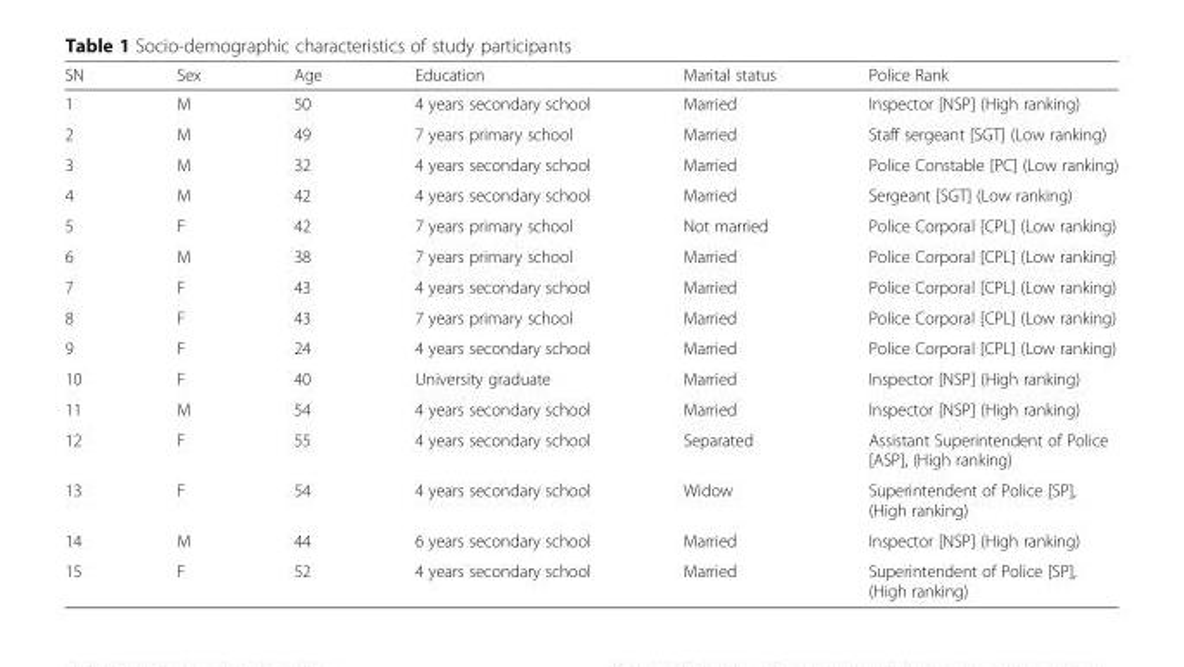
<table><thead><tr><td>SN</td><td>Sex</td><td>Age</td><td>Education</td><td>Marital status</td><td>Police Rank</td></tr></thead><tbody><tr><td>1</td><td>M</td><td>50</td><td>4 years secondary school</td><td>Married</td><td>Inspector [NSP] (High ranking)</td></tr><tr><td>2</td><td>M</td><td>49</td><td>7 years primary school</td><td>Married</td><td>Staff sergeant [SGT] (Low ranking)</td></tr><tr><td>3</td><td>M</td><td>32</td><td>4 years secondary school</td><td>Married</td><td>Police Constable [PC] (Low ranking)</td></tr><tr><td>4</td><td>M</td><td>42</td><td>4 years secondary school</td><td>Married</td><td>Sergeant [SGT] (Low ranking)</td></tr><tr><td>5</td><td>F</td><td>42</td><td>7 years primary school</td><td>Not married</td><td>Police Corporal [CPL] (Low ranking)</td></tr><tr><td>6</td><td>M</td><td>38</td><td>7 years primary school</td><td>Married</td><td>Police Corporal [CPL] (Low ranking)</td></tr><tr><td>7</td><td>F</td><td>43</td><td>4 years secondary school</td><td>Married</td><td>Police Corporal [CPL] (Low ranking)</td></tr><tr><td>8</td><td>F</td><td>43</td><td>7 years primary school</td><td>Married</td><td>Police Corporal [CPL] (Low ranking)</td></tr><tr><td>9</td><td>F</td><td>24</td><td>4 years secondary school</td><td>Married</td><td>Police Corporal [CPL] (Low ranking)</td></tr><tr><td>10</td><td>F</td><td>40</td><td>University graduate</td><td>Married</td><td>Inspector [NSP] (High ranking)</td></tr><tr><td>11</td><td>M</td><td>54</td><td>4 years secondary school</td><td>Married</td><td>Inspector [NSP] (High ranking)</td></tr><tr><td>12</td><td>F</td><td>55</td><td>4 years secondary school</td><td>Separated</td><td>Assistant Superintendent of Police [ASP], (High ranking)</td></tr><tr><td>13</td><td>F</td><td>54</td><td>4 years secondary school</td><td>Widow</td><td>Superintendent of Police [SP], (High ranking)</td></tr><tr><td>14</td><td>M</td><td>44</td><td>6 years secondary school</td><td>Married</td><td>Inspector [NSP] (High ranking)</td></tr><tr><td>15</td><td>F</td><td>52</td><td>4 years secondary school</td><td>Married</td><td>Superintendent of Police [SP], (High ranking)</td></tr></tbody></table>